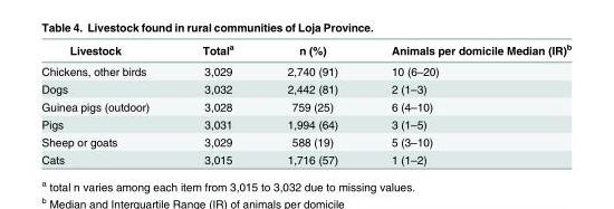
<table><thead><tr><td>Livestock</td><td>Total<sup>a</sup></td><td>n (%)</td><td>Animals per domicile Median (IR)<sup>b</sup></td></tr></thead><tbody><tr><td>Chickens, other birds</td><td>3,029</td><td>2,740 (91)</td><td>10 (6–20)</td></tr><tr><td>Dogs</td><td>3,032</td><td>2,442 (81)</td><td>2 (1–3)</td></tr><tr><td>Guinea pigs (outdoor)</td><td>3,028</td><td>759 (25)</td><td>6 (4–10)</td></tr><tr><td>Pigs</td><td>3,031</td><td>1,994 (64)</td><td>3 (1–5)</td></tr><tr><td>Sheep or goats</td><td>3,029</td><td>588 (19)</td><td>5 (3–10)</td></tr><tr><td>Cats</td><td>3,015</td><td>1,716 (57)</td><td>1 (1–2)</td></tr></tbody></table>